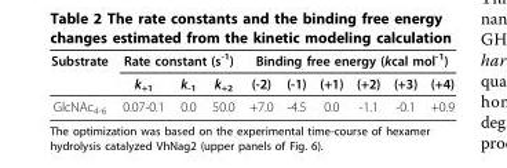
<table><thead><tr><td rowspan="2">Substrate</td><td colspan="3">Rate constant (s<sup>-1</sup>)</td><td colspan="6">Binding free energy (kcal mol<sup>-1</sup>)</td></tr><tr><td>k<sub>+1</sub></td><td>k<sub>-1</sub></td><td>k<sub>+2</sub></td><td>(-2)</td><td>(-1)</td><td>(+1)</td><td>(+2)</td><td>(+3)</td><td>(+4)</td></tr></thead><tbody><tr><td>GlcNAc<sub>4-6</sub></td><td>0.07-0.1</td><td>0.0</td><td>50.0</td><td>+7.0</td><td>-4.5</td><td>0.0</td><td>-1.1</td><td>-0.1</td><td>+0.9</td></tr></tbody></table>